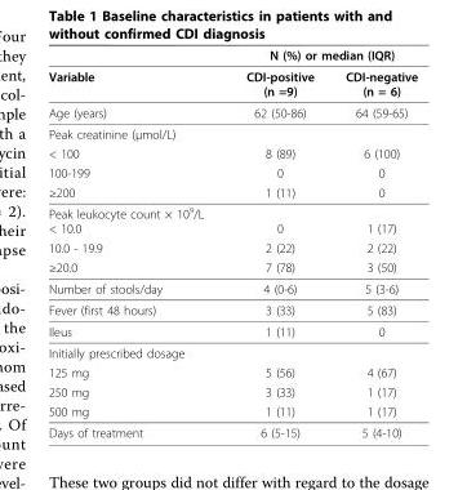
<table><thead><tr><td rowspan="2">Variable</td><td colspan="2">N (%) or median (IQR)</td></tr><tr><td>CDI-positive (n =9)</td><td>CDI-negative (n = 6)</td></tr></thead><tbody><tr><td>Age (years)</td><td>62 (50-86)</td><td>64 (59-65)</td></tr><tr><td colspan="3">Peak creatinine (μmol/L)</td></tr><tr><td>&lt; 100</td><td>8 (89)</td><td>6 (100)</td></tr><tr><td>100-199</td><td>0</td><td>0</td></tr><tr><td>≥200</td><td>1 (11)</td><td>0</td></tr><tr><td>Peak leukocyte count × 10<sup>9</sup>/L &lt; 10.0</td><td>0</td><td>1 (17)</td></tr><tr><td>10.0 - 19.9</td><td>2 (22)</td><td>2 (22)</td></tr><tr><td>≥20.0</td><td>7 (78)</td><td>3 (50)</td></tr><tr><td>Number of stools/day</td><td>4 (0-6)</td><td>5 (3-6)</td></tr><tr><td>Fever (first 48 hours)</td><td>3 (33)</td><td>5 (83)</td></tr><tr><td>Ileus</td><td>1 (11)</td><td>0</td></tr><tr><td colspan="3">Initially prescribed dosage</td></tr><tr><td>125 mg</td><td>5 (56)</td><td>4 (67)</td></tr><tr><td>250 mg</td><td>3 (33)</td><td>1 (17)</td></tr><tr><td>500 mg</td><td>1 (11)</td><td>1 (17)</td></tr><tr><td>Days of treatment</td><td>6 (5-15)</td><td>5 (4-10)</td></tr></tbody></table>